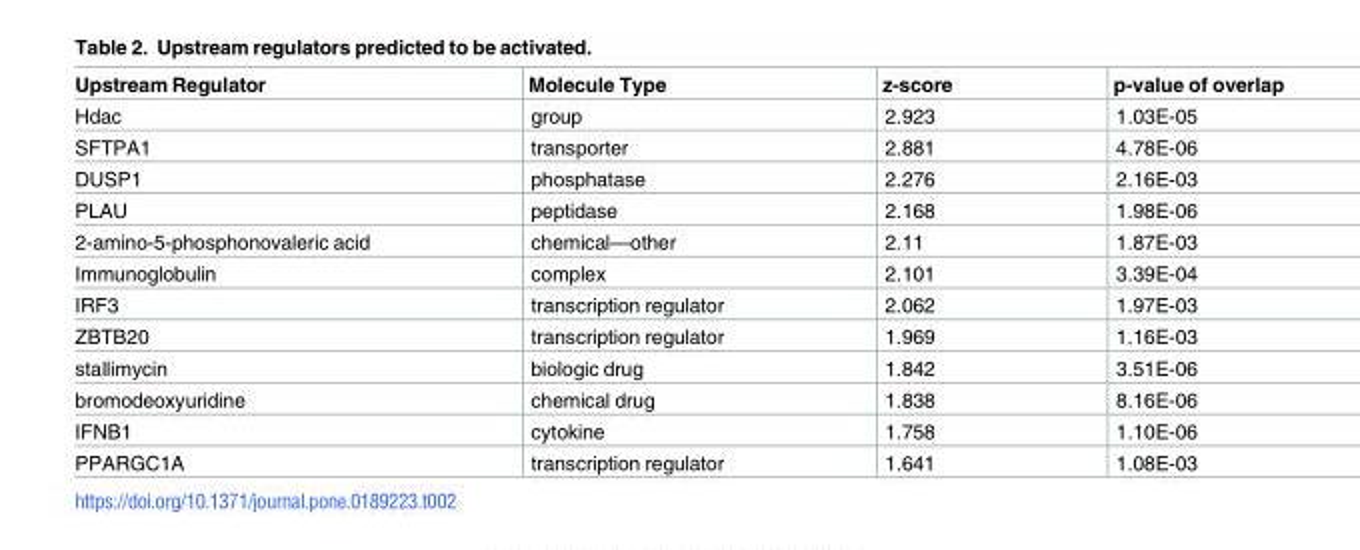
<table><thead><tr><td>Upstream Regulator</td><td>Molecule Type</td><td>z-score</td><td>p-value of overlap</td></tr></thead><tbody><tr><td>Hdac</td><td>group</td><td>2.923</td><td>1.03E-05</td></tr><tr><td>SFTPA1</td><td>transporter</td><td>2.881</td><td>4.78E-06</td></tr><tr><td>DUSP1</td><td>phosphatase</td><td>2.276</td><td>2.16E-03</td></tr><tr><td>PLAU</td><td>peptidase</td><td>2.168</td><td>1.98E-06</td></tr><tr><td>2-amino-5-phosphonovaleric acid</td><td>chemical—other</td><td>2.11</td><td>1.87E-03</td></tr><tr><td>Immunoglobulin</td><td>complex</td><td>2.101</td><td>3.39E-04</td></tr><tr><td>IRF3</td><td>transcription regulator</td><td>2.062</td><td>1.97E-03</td></tr><tr><td>ZBTB20</td><td>transcription regulator</td><td>1.969</td><td>1.16E-03</td></tr><tr><td>stallimycin</td><td>biologic drug</td><td>1.842</td><td>3.51E-06</td></tr><tr><td>bromodeoxyuridine</td><td>chemical drug</td><td>1.838</td><td>8.16E-06</td></tr><tr><td>IFNB1</td><td>cytokine</td><td>1.758</td><td>1.10E-06</td></tr><tr><td>PPARGC1A</td><td>transcription regulator</td><td>1.641</td><td>1.08E-03</td></tr></tbody></table>